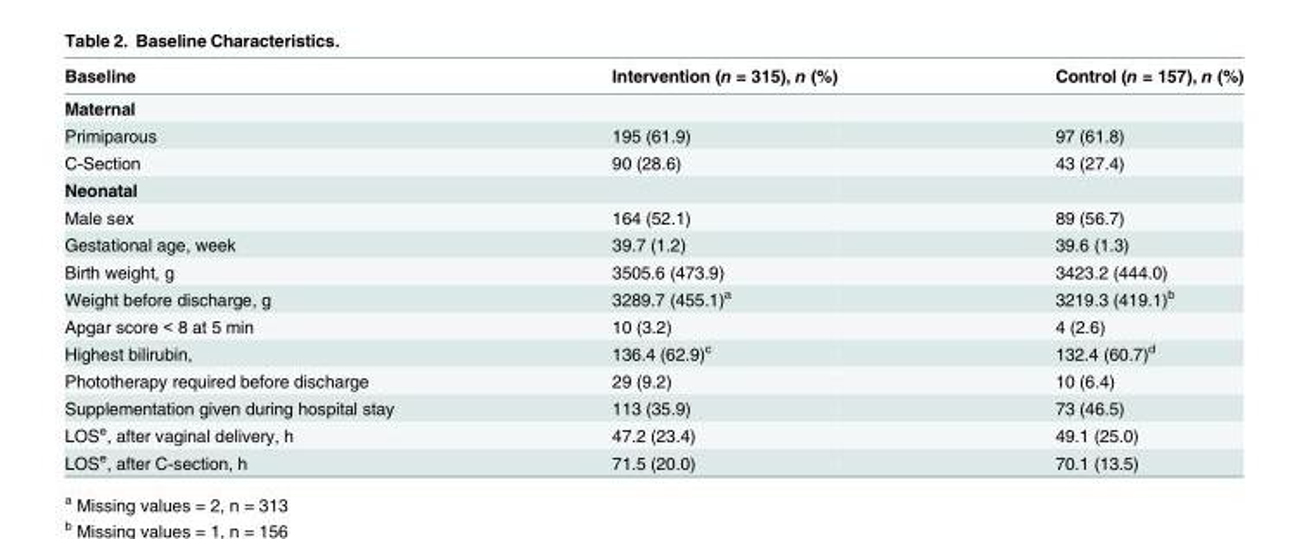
<table><thead><tr><td>Baseline</td><td>Intervention (n = 315), n (%)</td><td>Control (n = 157), n (%)</td></tr></thead><tbody><tr><td colspan="3">Maternal</td></tr><tr><td>Primiparous</td><td>195 (61.9)</td><td>97 (61.8)</td></tr><tr><td>C-Section</td><td>90 (28.6)</td><td>43 (27.4)</td></tr><tr><td colspan="3">Neonatal</td></tr><tr><td>Male sex</td><td>164 (52.1)</td><td>89 (56.7)</td></tr><tr><td>Gestational age, week</td><td>39.7 (1.2)</td><td>39.6 (1.3)</td></tr><tr><td>Birth weight, g</td><td>3505.6 (473.9)</td><td>3423.2 (444.0)</td></tr><tr><td>Weight before discharge, g</td><td>3289.7 (455.1)<sup>a</sup></td><td>3219.3 (419.1)<sup>b</sup></td></tr><tr><td>Apgar score &lt; 8 at 5 min</td><td>10 (3.2)</td><td>4 (2.6)</td></tr><tr><td>Highest bilirubin,</td><td>136.4 (62.9)<sup>c</sup></td><td>132.4 (60.7)<sup>d</sup></td></tr><tr><td>Phototherapy required before discharge</td><td>29 (9.2)</td><td>10 (6.4)</td></tr><tr><td>Supplementation given during hospital stay</td><td>113 (35.9)</td><td>73 (46.5)</td></tr><tr><td>LOS<sup>e</sup>, after vaginal delivery, h</td><td>47.2 (23.4)</td><td>49.1 (25.0)</td></tr><tr><td>LOS<sup>e</sup>, after C-section, h</td><td>71.5 (20.0)</td><td>70.1 (13.5)</td></tr></tbody></table>